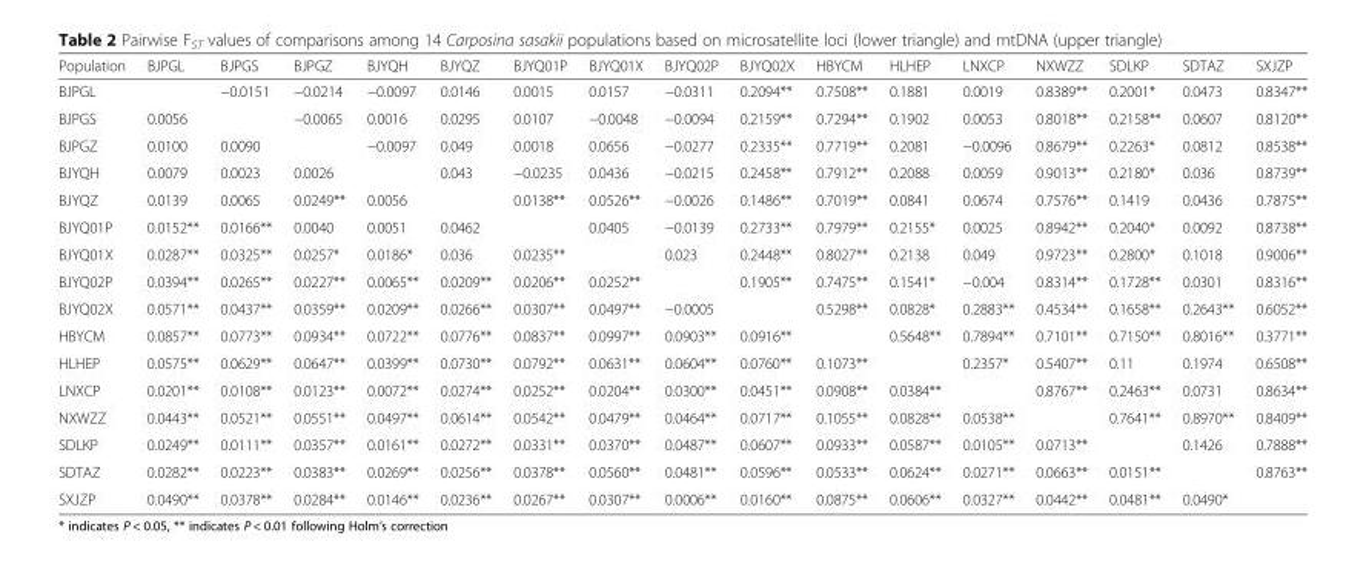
<table><thead><tr><td>Population</td><td>BJPGL</td><td>BJPGS</td><td>BJPGZ</td><td>BJYQH</td><td>BJYQZ</td><td>BJYQ01P</td><td>BJYQ01X</td><td>BJYQ02P</td><td>BJYQ02X</td><td>HBYCM</td><td>HLHEP</td><td>LNXCP</td><td>NXWZZ</td><td>SDLKP</td><td>SDTAZ</td><td>SXJZP</td></tr></thead><tbody><tr><td>BJPGL</td><td></td><td>−0.0151</td><td>−0.0214</td><td>−0.0097</td><td>0.0146</td><td>0.0015</td><td>0.0157</td><td>−0.0311</td><td>0.2094**</td><td>0.7508**</td><td>0.1881</td><td>0.0019</td><td>0.8389**</td><td>0.2001*</td><td>0.0473</td><td>0.8347**</td></tr><tr><td>BJPGS</td><td>0.0056</td><td></td><td>−0.0065</td><td>0.0016</td><td>0.0295</td><td>0.0107</td><td>−0.0048</td><td>−0.0094</td><td>0.2159**</td><td>0.7294**</td><td>0.1902</td><td>0.0053</td><td>0.8018**</td><td>0.2158**</td><td>0.0607</td><td>0.8120**</td></tr><tr><td>BJPGZ</td><td>0.0100</td><td>0.0090</td><td></td><td>−0.0097</td><td>0.049</td><td>0.0018</td><td>0.0656</td><td>−0.0277</td><td>0.2335**</td><td>0.7719**</td><td>0.2081</td><td>−0.0096</td><td>0.8679**</td><td>0.2263*</td><td>0.0812</td><td>0.8538**</td></tr><tr><td>BJYQH</td><td>0.0079</td><td>0.0023</td><td>0.0026</td><td></td><td>0.043</td><td>−0.0235</td><td>0.0436</td><td>−0.0215</td><td>0.2458**</td><td>0.7912**</td><td>0.2088</td><td>0.0059</td><td>0.9013**</td><td>0.2180*</td><td>0.036</td><td>0.8739**</td></tr><tr><td>BJYQZ</td><td>0.0139</td><td>0.0065</td><td>0.0249**</td><td>0.0056</td><td></td><td>0.0138**</td><td>0.0526**</td><td>−0.0026</td><td>0.1486**</td><td>0.7019**</td><td>0.0841</td><td>0.0674</td><td>0.7576**</td><td>0.1419</td><td>0.0436</td><td>0.7875**</td></tr><tr><td>BJYQ01P</td><td>0.0152**</td><td>0.0166**</td><td>0.0040</td><td>0.0051</td><td>0.0462</td><td></td><td>0.0405</td><td>−0.0139</td><td>0.2733**</td><td>0.7979**</td><td>0.2155*</td><td>0.0025</td><td>0.8942**</td><td>0.2040*</td><td>0.0092</td><td>0.8738**</td></tr><tr><td>BJYQ01X</td><td>0.0287**</td><td>0.0325**</td><td>0.0257*</td><td>0.0186*</td><td>0.036</td><td>0.0235**</td><td></td><td>0.023</td><td>0.2448**</td><td>0.8027**</td><td>0.2138</td><td>0.049</td><td>0.9723**</td><td>0.2800*</td><td>0.1018</td><td>0.9006**</td></tr><tr><td>BJYQ02P</td><td>0.0394**</td><td>0.0265**</td><td>0.0227**</td><td>0.0065**</td><td>0.0209**</td><td>0.0206**</td><td>0.0252**</td><td></td><td>0.1905**</td><td>0.7475**</td><td>0.1541*</td><td>−0.004</td><td>0.8314**</td><td>0.1728**</td><td>0.0301</td><td>0.8316**</td></tr><tr><td>BJYQ02X</td><td>0.0571**</td><td>0.0437**</td><td>0.0359**</td><td>0.0209**</td><td>0.0266**</td><td>0.0307**</td><td>0.0497**</td><td>−0.0005</td><td></td><td>0.5298**</td><td>0.0828*</td><td>0.2883**</td><td>0.4534**</td><td>0.1658**</td><td>0.2643**</td><td>0.6052**</td></tr><tr><td>HBYCM</td><td>0.0857**</td><td>0.0773**</td><td>0.0934**</td><td>0.0722**</td><td>0.0776**</td><td>0.0837**</td><td>0.0997**</td><td>0.0903**</td><td>0.0916**</td><td></td><td>0.5648**</td><td>0.7894**</td><td>0.7101**</td><td>0.7150**</td><td>0.8016**</td><td>0.3771**</td></tr><tr><td>HLHEP</td><td>0.0575**</td><td>0.0629**</td><td>0.0647**</td><td>0.0399**</td><td>0.0730**</td><td>0.0792**</td><td>0.0631**</td><td>0.0604**</td><td>0.0760**</td><td>0.1073**</td><td></td><td>0.2357*</td><td>0.5407**</td><td>0.11</td><td>0.1974</td><td>0.6508**</td></tr><tr><td>LNXCP</td><td>0.0201**</td><td>0.0108**</td><td>0.0123**</td><td>0.0072**</td><td>0.0274**</td><td>0.0252**</td><td>0.0204**</td><td>0.0300**</td><td>0.0451**</td><td>0.0908**</td><td>0.0384**</td><td></td><td>0.8767**</td><td>0.2463**</td><td>0.0731</td><td>0.8634**</td></tr><tr><td>NXWZZ</td><td>0.0443**</td><td>0.0521**</td><td>0.0551**</td><td>0.0497**</td><td>0.0614**</td><td>0.0542**</td><td>0.0479**</td><td>0.0464**</td><td>0.0717**</td><td>0.1055**</td><td>0.0828**</td><td>0.0538**</td><td></td><td>0.7641**</td><td>0.8970**</td><td>0.8409**</td></tr><tr><td>SDLKP</td><td>0.0249**</td><td>0.0111**</td><td>0.0357**</td><td>0.0161**</td><td>0.0272**</td><td>0.0331**</td><td>0.0370**</td><td>0.0487**</td><td>0.0607**</td><td>0.0933**</td><td>0.0587**</td><td>0.0105**</td><td>0.0713**</td><td></td><td>0.1426</td><td>0.7888**</td></tr><tr><td>SDTAZ</td><td>0.0282**</td><td>0.0223**</td><td>0.0383**</td><td>0.0269**</td><td>0.0256**</td><td>0.0378**</td><td>0.0560**</td><td>0.0481**</td><td>0.0596**</td><td>0.0533**</td><td>0.0624**</td><td>0.0271**</td><td>0.0663**</td><td>0.0151**</td><td></td><td>0.8763**</td></tr><tr><td>SXJZP</td><td>0.0490**</td><td>0.0378**</td><td>0.0284**</td><td>0.0146**</td><td>0.0236**</td><td>0.0267**</td><td>0.0307**</td><td>0.0006**</td><td>0.0160**</td><td>0.0875**</td><td>0.0606**</td><td>0.0327**</td><td>0.0442**</td><td>0.0481**</td><td>0.0490*</td><td></td></tr></tbody></table>